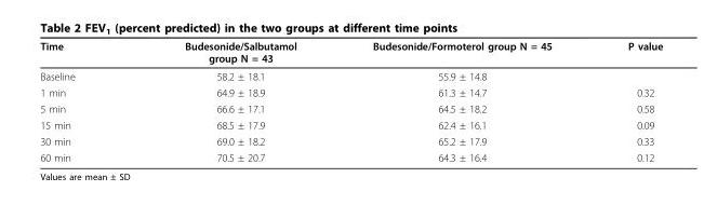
<table><thead><tr><td>Time</td><td>Budesonide/Salbutamol group N = 43</td><td>Budesonide/Formoterol group N = 45</td><td>P value</td></tr></thead><tbody><tr><td>Baseline</td><td>58.2 ± 18.1</td><td>55.9 ± 14.8</td><td></td></tr><tr><td>1 min</td><td>64.9 ± 18.9</td><td>61.3 ± 14.7</td><td>0.32</td></tr><tr><td>5 min</td><td>66.6 ± 17.1</td><td>64.5 ± 18.2</td><td>0.58</td></tr><tr><td>15 min</td><td>68.5 ± 17.9</td><td>62.4 ± 16.1</td><td>0.09</td></tr><tr><td>30 min</td><td>69.0 ± 18.2</td><td>65.2 ± 17.9</td><td>0.33</td></tr><tr><td>60 min</td><td>70.5 ± 20.7</td><td>64.3 ± 16.4</td><td>0.12</td></tr></tbody></table>